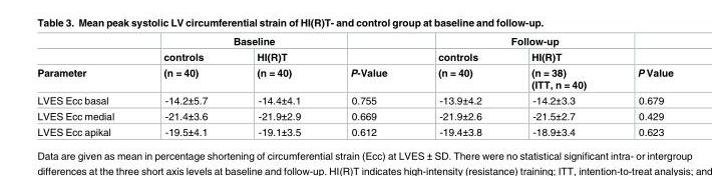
<table><thead><tr><td rowspan="3">Parameter</td><td colspan="2">Baseline</td><td rowspan="3">P-Value</td><td colspan="2">Follow-up</td><td rowspan="3">P Value</td></tr><tr><td rowspan="2">controls (n = 40)</td><td rowspan="2">HI(R)T (n = 40)</td><td rowspan="2">controls (n = 40)</td><td rowspan="2">HI(R)T (n = 38) (ITT, n = 40)</td></tr><tr></tr></thead><tbody><tr><td>LVES Ecc basal</td><td>-14.2±5.7</td><td>-14.4±4.1</td><td>0.755</td><td>-13.9±4.2</td><td>-14.2±3.3</td><td>0.679</td></tr><tr><td>LVES Ecc medial</td><td>-21.4±3.6</td><td>-21.9±2.9</td><td>0.669</td><td>-21.9±2.6</td><td>-21.5±2.7</td><td>0.429</td></tr><tr><td>LVES Ecc apikal</td><td>-19.5±4.1</td><td>-19.1±3.5</td><td>0.612</td><td>-19.4±3.8</td><td>-18.9±3.4</td><td>0.623</td></tr></tbody></table>